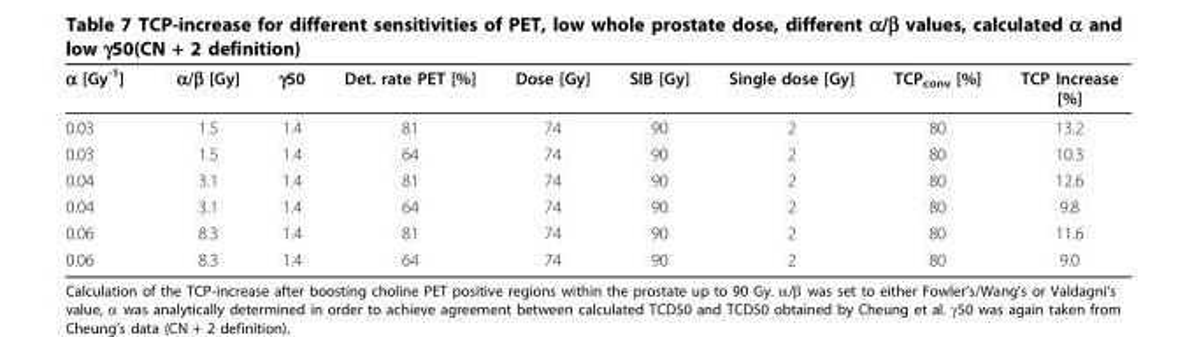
<table><thead><tr><td>α [Gy<sup>-1</sup>]</td><td>α/β [Gy]</td><td>γ50</td><td>Det. rate PET [%]</td><td>Dose [Gy]</td><td>SIB [Gy]</td><td>Single dose [Gy]</td><td>TCP<sub>conv</sub> [%]</td><td>TCP Increase [%]</td></tr></thead><tbody><tr><td>0.03</td><td>1.5</td><td>1.4</td><td>81</td><td>74</td><td>90</td><td>2</td><td>80</td><td>13.2</td></tr><tr><td>0.03</td><td>1.5</td><td>1.4</td><td>64</td><td>74</td><td>90</td><td>2</td><td>80</td><td>10.3</td></tr><tr><td>0.04</td><td>3.1</td><td>1.4</td><td>81</td><td>74</td><td>90</td><td>2</td><td>80</td><td>12.6</td></tr><tr><td>0.04</td><td>3.1</td><td>1.4</td><td>64</td><td>74</td><td>90</td><td>2</td><td>80</td><td>9.8</td></tr><tr><td>0.06</td><td>8.3</td><td>1.4</td><td>81</td><td>74</td><td>90</td><td>2</td><td>80</td><td>11.6</td></tr><tr><td>0.06</td><td>8.3</td><td>1.4</td><td>64</td><td>74</td><td>90</td><td>2</td><td>80</td><td>9.0</td></tr></tbody></table>